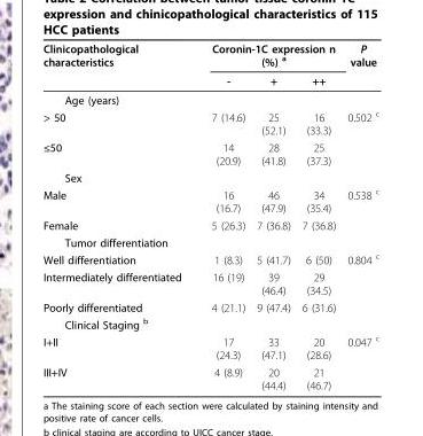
<table><thead><tr><td rowspan="2">Clinicopathological characteristics</td><td colspan="3">Coronin-1C expression n (%) <sup>a</sup></td><td rowspan="2">P value</td></tr><tr><td>-</td><td>+</td><td>++</td></tr></thead><tbody><tr><td colspan="5">Age (years)</td></tr><tr><td>&gt; 50</td><td>7 (14.6)</td><td>25 (52.1)</td><td>16 (33.3)</td><td>0.502 <sup>c</sup></td></tr><tr><td>≤50</td><td>14 (20.9)</td><td>28 (41.8)</td><td>25 (37.3)</td><td></td></tr><tr><td colspan="5">Sex</td></tr><tr><td>Male</td><td>16 (16.7)</td><td>46 (47.9)</td><td>34 (35.4)</td><td>0.538 <sup>c</sup></td></tr><tr><td>Female</td><td>5 (26.3)</td><td>7 (36.8)</td><td>7 (36.8)</td><td></td></tr><tr><td colspan="5">Tumor differentiation</td></tr><tr><td>Well differentiation</td><td>1 (8.3)</td><td>5 (41.7)</td><td>6 (50)</td><td>0.804 <sup>c</sup></td></tr><tr><td>Intermediately differentiated</td><td>16 (19)</td><td>39 (46.4)</td><td>29 (34.5)</td><td></td></tr><tr><td>Poorly differentiated</td><td>4 (21.1)</td><td>9 (47.4)</td><td>6 (31.6)</td><td></td></tr><tr><td colspan="5">Clinical Staging b</td></tr><tr><td>I+II</td><td>17 (24.3)</td><td>33 (47.1)</td><td>20 (28.6)</td><td>0.047 <sup>c</sup></td></tr><tr><td>III+IV</td><td>4 (8.9)</td><td>20 (44.4)</td><td>21 (46.7)</td><td></td></tr></tbody></table>